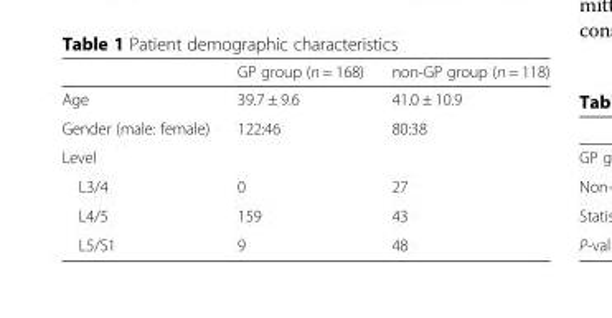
<table><thead><tr><td></td><td>GP group (n = 168)</td><td>non-GP group (n = 118)</td></tr></thead><tbody><tr><td>Age</td><td>39.7 ± 9.6</td><td>41.0 ± 10.9</td></tr><tr><td>Gender (male: female)</td><td>122:46</td><td>80:38</td></tr><tr><td colspan="3">Level</td></tr><tr><td>L3/4</td><td>0</td><td>27</td></tr><tr><td>L4/5</td><td>159</td><td>43</td></tr><tr><td>L5/S1</td><td>9</td><td>48</td></tr></tbody></table>